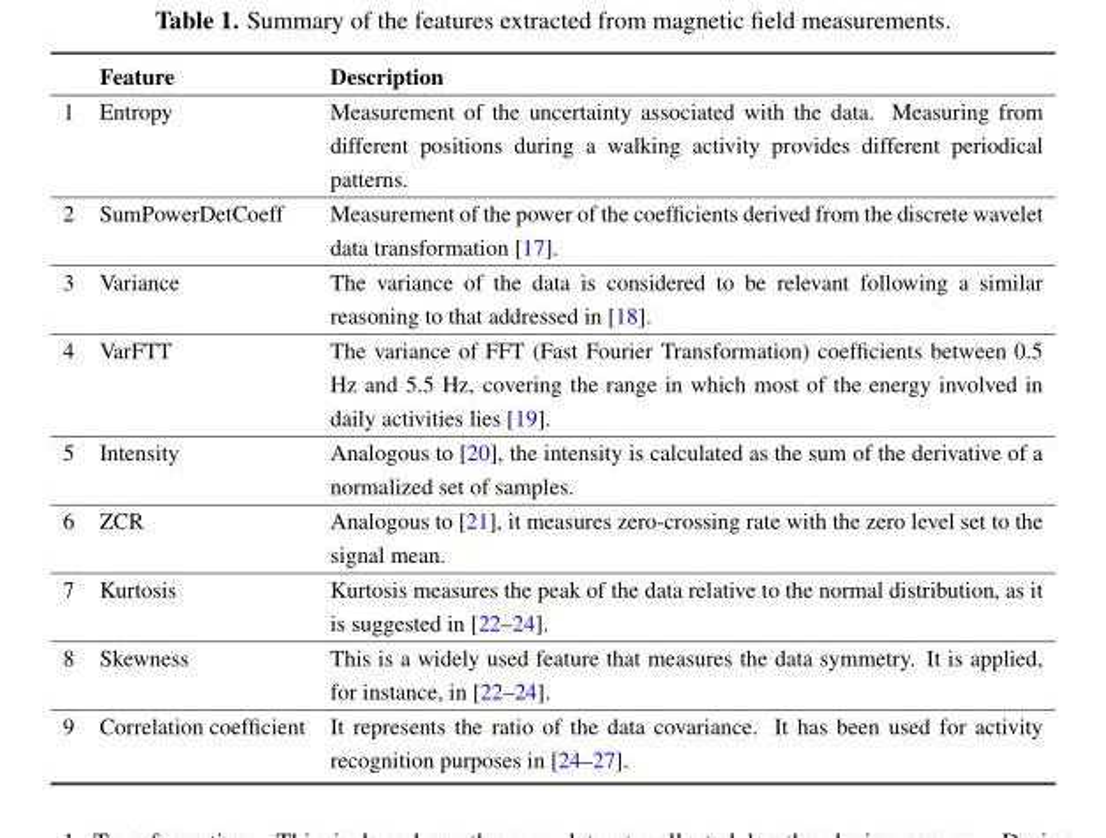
<table><thead><tr><td></td><td>Feature</td><td>Description</td></tr></thead><tbody><tr><td>1</td><td>Entropy</td><td>Measurement of the uncertainty associated with the data. Measuring from different positions during a walking activity provides different periodical patterns.</td></tr><tr><td>2</td><td>SumPowerDetCoeff</td><td>Measurement of the power of the coefficients derived from the discrete wavelet data transformation [17].</td></tr><tr><td>3</td><td>Variance</td><td>The variance of the data is considered to be relevant following a similar reasoning to that addressed in [18].</td></tr><tr><td>4</td><td>VarFTT</td><td>The variance of FFT (Fast Fourier Transformation) coefficients between 0.5 Hz and 5.5 Hz, covering the range in which most of the energy involved in daily activities lies [19].</td></tr><tr><td>5</td><td>Intensity</td><td>Analogous to [20], the intensity is calculated as the sum of the derivative of a normalized set of samples.</td></tr><tr><td>6</td><td>ZCR</td><td>Analogous to [21], it measures zero-crossing rate with the zero level set to the signal mean.</td></tr><tr><td>7</td><td>Kurtosis</td><td>Kurtosis measures the peak of the data relative to the normal distribution, as it is suggested in [22–24].</td></tr><tr><td>8</td><td>Skewness</td><td>This is a widely used feature that measures the data symmetry. It is applied, for instance, in [22–24].</td></tr><tr><td>9</td><td>Correlation coefficient</td><td>It represents the ratio of the data covariance. It has been used for activity recognition purposes in [24–27].</td></tr></tbody></table>